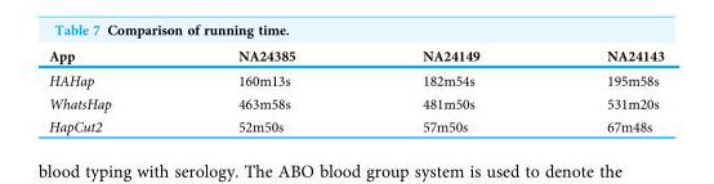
<table><thead><tr><td>App</td><td>NA24385</td><td>NA24149</td><td>NA24143</td></tr></thead><tbody><tr><td>HAHap</td><td>160m13s</td><td>182m54s</td><td>195m58s</td></tr><tr><td>WhatsHap</td><td>463m58s</td><td>481m50s</td><td>531m20s</td></tr><tr><td>HapCut2</td><td>52m50s</td><td>57m50s</td><td>67m48s</td></tr></tbody></table>